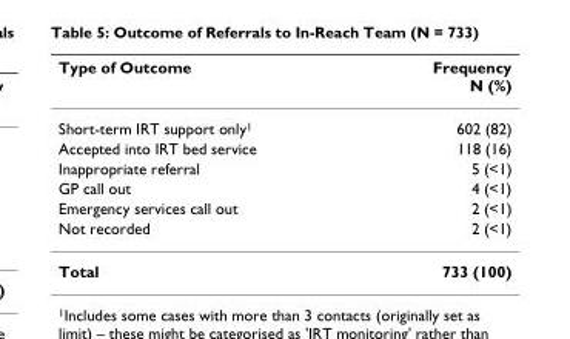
<table><thead><tr><td>Type of Outcome</td><td>Frequency N (%)</td></tr></thead><tbody><tr><td>Short-term IRT support only<sup>1</sup></td><td>602 (82)</td></tr><tr><td>Accepted into IRT bed service</td><td>118 (16)</td></tr><tr><td>Inappropriate referral</td><td>5 (&lt;1)</td></tr><tr><td>GP call out</td><td>4 (&lt;1)</td></tr><tr><td>Emergency services call out</td><td>2 (&lt;1)</td></tr><tr><td>Not recorded</td><td>2 (&lt;1)</td></tr><tr><td>Total</td><td>733 (100)</td></tr></tbody></table>